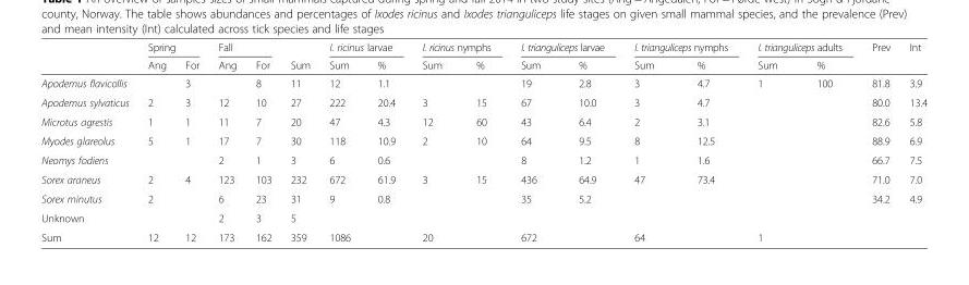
<table><thead><tr><td rowspan="2"></td><td colspan="2">Spring</td><td colspan="2">Fall</td><td rowspan="2">Sum</td><td colspan="2">I. ricinus larvae</td><td colspan="2">I. ricinus nymphs</td><td colspan="2">I. trianguliceps larvae</td><td colspan="2">I. trianguliceps nymphs</td><td colspan="2">I. trianguliceps adults</td><td rowspan="2">Prev</td><td rowspan="2">Int</td></tr><tr><td>Ang</td><td>For</td><td>Ang</td><td>For</td><td>Sum</td><td>%</td><td>Sum</td><td>%</td><td>Sum</td><td>%</td><td>Sum</td><td>%</td><td>Sum</td><td>%</td></tr></thead><tbody><tr><td>Apodemus flavicollis</td><td></td><td>3</td><td></td><td>8</td><td>11</td><td>12</td><td>1.1</td><td></td><td></td><td>19</td><td>2.8</td><td>3</td><td>4.7</td><td>1</td><td>100</td><td>81.8</td><td>3.9</td></tr><tr><td>Apodemus sylvaticus</td><td>2</td><td>3</td><td>12</td><td>10</td><td>27</td><td>222</td><td>20.4</td><td>3</td><td>15</td><td>67</td><td>10.0</td><td>3</td><td>4.7</td><td></td><td></td><td>80.0</td><td>13.4</td></tr><tr><td>Microtus agrestis</td><td>1</td><td>1</td><td>11</td><td>7</td><td>20</td><td>47</td><td>4.3</td><td>12</td><td>60</td><td>43</td><td>6.4</td><td>2</td><td>3.1</td><td></td><td></td><td>82.6</td><td>5.8</td></tr><tr><td>Myodes glareolus</td><td>5</td><td>1</td><td>17</td><td>7</td><td>30</td><td>118</td><td>10.9</td><td>2</td><td>10</td><td>64</td><td>9.5</td><td>8</td><td>12.5</td><td></td><td></td><td>88.9</td><td>6.9</td></tr><tr><td>Neomys fodiens</td><td></td><td></td><td>2</td><td>1</td><td>3</td><td>6</td><td>0.6</td><td></td><td></td><td>8</td><td>1.2</td><td>1</td><td>1.6</td><td></td><td></td><td>66.7</td><td>7.5</td></tr><tr><td>Sorex araneus</td><td>2</td><td>4</td><td>123</td><td>103</td><td>232</td><td>672</td><td>61.9</td><td>3</td><td>15</td><td>436</td><td>64.9</td><td>47</td><td>73.4</td><td></td><td></td><td>71.0</td><td>7.0</td></tr><tr><td>Sorex minutus</td><td>2</td><td></td><td>6</td><td>23</td><td>31</td><td>9</td><td>0.8</td><td></td><td></td><td>35</td><td>5.2</td><td></td><td></td><td></td><td></td><td>34.2</td><td>4.9</td></tr><tr><td>Unknown</td><td></td><td></td><td>2</td><td>3</td><td>5</td><td></td><td></td><td></td><td></td><td></td><td></td><td></td><td></td><td></td><td></td><td></td><td></td></tr><tr><td>Sum</td><td>12</td><td>12</td><td>173</td><td>162</td><td>359</td><td>1086</td><td></td><td>20</td><td></td><td>672</td><td></td><td>64</td><td></td><td>1</td><td></td><td></td><td></td></tr></tbody></table>